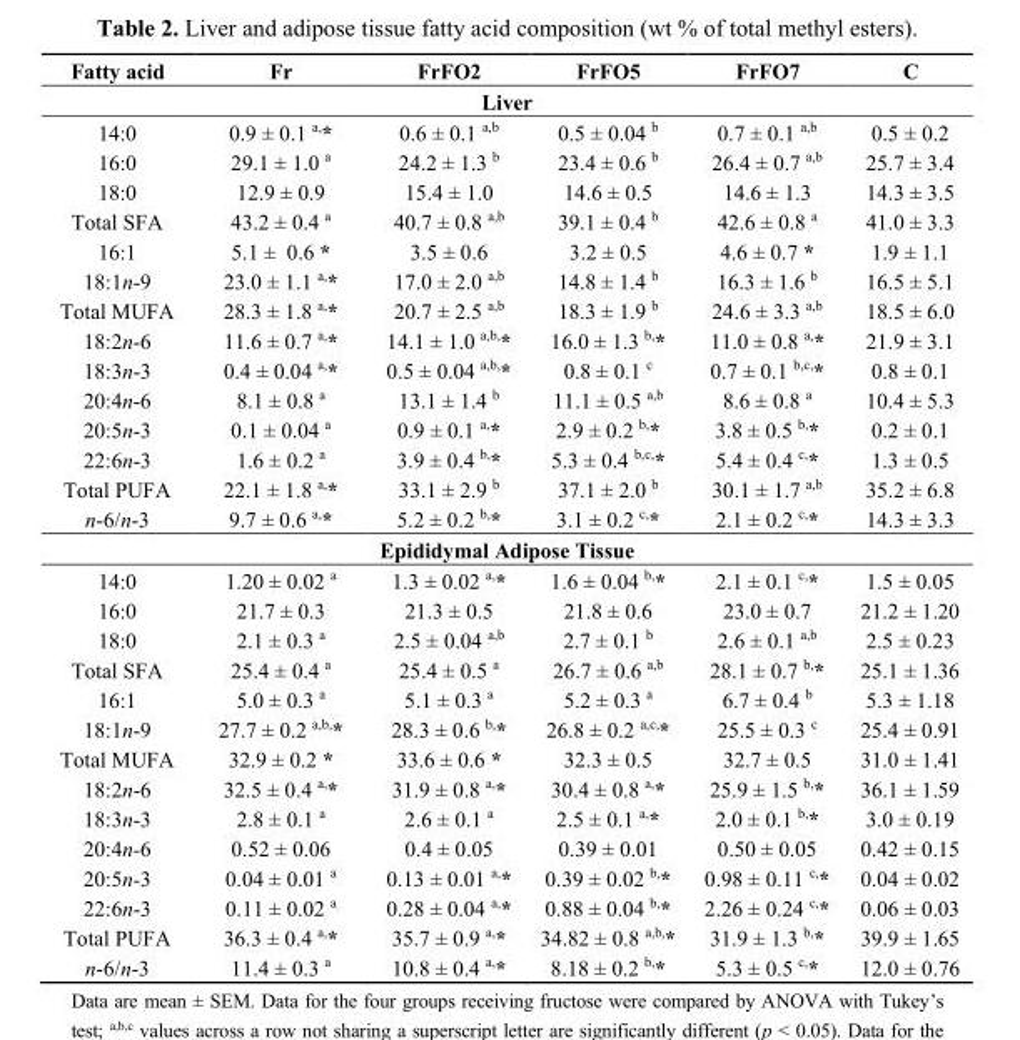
<table><thead><tr><td>Fatty acid</td><td>Fr</td><td>FrFO2</td><td>FrFO5</td><td>FrFO7</td><td>C</td></tr></thead><tbody><tr><td colspan="6">Liver</td></tr><tr><td>14:0</td><td>0.9 ± 0.1 <sup>a,</sup>*</td><td>0.6 ± 0.1 <sup>a,b</sup></td><td>0.5 ± 0.04 <sup>b</sup></td><td>0.7 ± 0.1 <sup>a,b</sup></td><td>0.5 ± 0.2</td></tr><tr><td>16:0</td><td>29.1 ± 1.0 <sup>a</sup></td><td>24.2 ± 1.3 <sup>b</sup></td><td>23.4 ± 0.6 <sup>b</sup></td><td>26.4 ± 0.7 <sup>a,b</sup></td><td>25.7 ± 3.4</td></tr><tr><td>18:0</td><td>12.9 ± 0.9</td><td>15.4 ± 1.0</td><td>14.6 ± 0.5</td><td>14.6 ± 1.3</td><td>14.3 ± 3.5</td></tr><tr><td>Total SFA</td><td>43.2 ± 0.4 <sup>a</sup></td><td>40.7 ± 0.8 <sup>a,b</sup></td><td>39.1 ± 0.4 <sup>b</sup></td><td>42.6 ± 0.8 <sup>a</sup></td><td>41.0 ± 3.3</td></tr><tr><td>16:1</td><td>5.1 ± 0.6 *</td><td>3.5 ± 0.6</td><td>3.2 ± 0.5</td><td>4.6 ± 0.7 *</td><td>1.9 ± 1.1</td></tr><tr><td>18:1n-9</td><td>23.0 ± 1.1 <sup>a,</sup>*</td><td>17.0 ± 2.0 <sup>a,b</sup></td><td>14.8 ± 1.4 <sup>b</sup></td><td>16.3 ± 1.6 <sup>b</sup></td><td>16.5 ± 5.1</td></tr><tr><td>Total MUFA</td><td>28.3 ± 1.8 <sup>a,</sup>*</td><td>20.7 ± 2.5 <sup>a,b</sup></td><td>18.3 ± 1.9 <sup>b</sup></td><td>24.6 ± 3.3 <sup>a,b</sup></td><td>18.5 ± 6.0</td></tr><tr><td>18:2n-6</td><td>11.6 ± 0.7 <sup>a,</sup>*</td><td>14.1 ± 1.0 <sup>a,b,</sup>*</td><td>16.0 ± 1.3 <sup>b,</sup>*</td><td>11.0 ± 0.8 <sup>a,</sup>*</td><td>21.9 ± 3.1</td></tr><tr><td>18:3n-3</td><td>0.4 ± 0.04 <sup>a,</sup>*</td><td>0.5 ± 0.04 <sup>a,b,</sup>*</td><td>0.8 ± 0.1 <sup>c</sup></td><td>0.7 ± 0.1 <sup>b,c,</sup>*</td><td>0.8 ± 0.1</td></tr><tr><td>20:4n-6</td><td>8.1 ± 0.8 <sup>a</sup></td><td>13.1 ± 1.4 <sup>b</sup></td><td>11.1 ± 0.5 <sup>a,b</sup></td><td>8.6 ± 0.8 <sup>a</sup></td><td>10.4 ± 5.3</td></tr><tr><td>20:5n-3</td><td>0.1 ± 0.04 <sup>a</sup></td><td>0.9 ± 0.1 <sup>a,</sup>*</td><td>2.9 ± 0.2 <sup>b,</sup>*</td><td>3.8 ± 0.5 <sup>b,</sup>*</td><td>0.2 ± 0.1</td></tr><tr><td>22:6n-3</td><td>1.6 ± 0.2 <sup>a</sup></td><td>3.9 ± 0.4 <sup>b,</sup>*</td><td>5.3 ± 0.4 <sup>b,c,</sup>*</td><td>5.4 ± 0.4 <sup>c,</sup>*</td><td>1.3 ± 0.5</td></tr><tr><td>Total PUFA</td><td>22.1 ± 1.8 <sup>a,</sup>*</td><td>33.1 ± 2.9 <sup>b</sup></td><td>37.1 ± 2.0 <sup>b</sup></td><td>30.1 ± 1.7 <sup>a,b</sup></td><td>35.2 ± 6.8</td></tr><tr><td>n-6/n-3</td><td>9.7 ± 0.6 <sup>a,</sup>*</td><td>5.2 ± 0.2 <sup>b,</sup>*</td><td>3.1 ± 0.2 <sup>c,</sup>*</td><td>2.1 ± 0.2 <sup>c,</sup>*</td><td>14.3 ± 3.3</td></tr><tr><td colspan="6">Epididymal Adipose Tissue</td></tr><tr><td>14:0</td><td>1.20 ± 0.02 <sup>a</sup></td><td>1.3 ± 0.02 <sup>a,</sup>*</td><td>1.6 ± 0.04 <sup>b,</sup>*</td><td>2.1 ± 0.1 <sup>c,</sup>*</td><td>1.5 ± 0.05</td></tr><tr><td>16:0</td><td>21.7 ± 0.3</td><td>21.3 ± 0.5</td><td>21.8 ± 0.6</td><td>23.0 ± 0.7</td><td>21.2 ± 1.20</td></tr><tr><td>18:0</td><td>2.1 ± 0.3 <sup>a</sup></td><td>2.5 ± 0.04 <sup>a,b</sup></td><td>2.7 ± 0.1 <sup>b</sup></td><td>2.6 ± 0.1 <sup>a,b</sup></td><td>2.5 ± 0.23</td></tr><tr><td>Total SFA</td><td>25.4 ± 0.4 <sup>a</sup></td><td>25.4 ± 0.5 <sup>a</sup></td><td>26.7 ± 0.6 <sup>a,b</sup></td><td>28.1 ± 0.7 <sup>b,</sup>*</td><td>25.1 ± 1.36</td></tr><tr><td>16:1</td><td>5.0 ± 0.3 <sup>a</sup></td><td>5.1 ± 0.3 <sup>a</sup></td><td>5.2 ± 0.3 <sup>a</sup></td><td>6.7 ± 0.4 <sup>b</sup></td><td>5.3 ± 1.18</td></tr><tr><td>18:1n-9</td><td>27.7 ± 0.2 <sup>a,b,</sup>*</td><td>28.3 ± 0.6 <sup>b,</sup>*</td><td>26.8 ± 0.2 <sup>a,c,</sup>*</td><td>25.5 ± 0.3 <sup>c</sup></td><td>25.4 ± 0.91</td></tr><tr><td>Total MUFA</td><td>32.9 ± 0.2 *</td><td>33.6 ± 0.6 *</td><td>32.3 ± 0.5</td><td>32.7 ± 0.5</td><td>31.0 ± 1.41</td></tr><tr><td>18:2n-6</td><td>32.5 ± 0.4 <sup>a,</sup>*</td><td>31.9 ± 0.8 <sup>a,</sup>*</td><td>30.4 ± 0.8 <sup>a,</sup>*</td><td>25.9 ± 1.5 <sup>b,</sup>*</td><td>36.1 ± 1.59</td></tr><tr><td>18:3n-3</td><td>2.8 ± 0.1 <sup>a</sup></td><td>2.6 ± 0.1 <sup>a</sup></td><td>2.5 ± 0.1 <sup>a,</sup>*</td><td>2.0 ± 0.1 <sup>b,</sup>*</td><td>3.0 ± 0.19</td></tr><tr><td>20:4n-6</td><td>0.52 ± 0.06</td><td>0.4 ± 0.05</td><td>0.39 ± 0.01</td><td>0.50 ± 0.05</td><td>0.42 ± 0.15</td></tr><tr><td>20:5n-3</td><td>0.04 ± 0.01 <sup>a</sup></td><td>0.13 ± 0.01 <sup>a,</sup>*</td><td>0.39 ± 0.02 <sup>b,</sup>*</td><td>0.98 ± 0.11 <sup>c,</sup>*</td><td>0.04 ± 0.02</td></tr><tr><td>22:6n-3</td><td>0.11 ± 0.02 <sup>a</sup></td><td>0.28 ± 0.04 <sup>a,</sup>*</td><td>0.88 ± 0.04 <sup>b,</sup>*</td><td>2.26 ± 0.24 <sup>c,</sup>*</td><td>0.06 ± 0.03</td></tr><tr><td>Total PUFA</td><td>36.3 ± 0.4 <sup>a,</sup>*</td><td>35.7 ± 0.9 <sup>a,</sup>*</td><td>34.82 ± 0.8 <sup>a,b,</sup>*</td><td>31.9 ± 1.3 <sup>b,</sup>*</td><td>39.9 ± 1.65</td></tr><tr><td>n-6/n-3</td><td>11.4 ± 0.3 <sup>a</sup></td><td>10.8 ± 0.4 <sup>a,</sup>*</td><td>8.18 ± 0.2 <sup>b,</sup>*</td><td>5.3 ± 0.5 <sup>c,</sup>*</td><td>12.0 ± 0.76</td></tr></tbody></table>